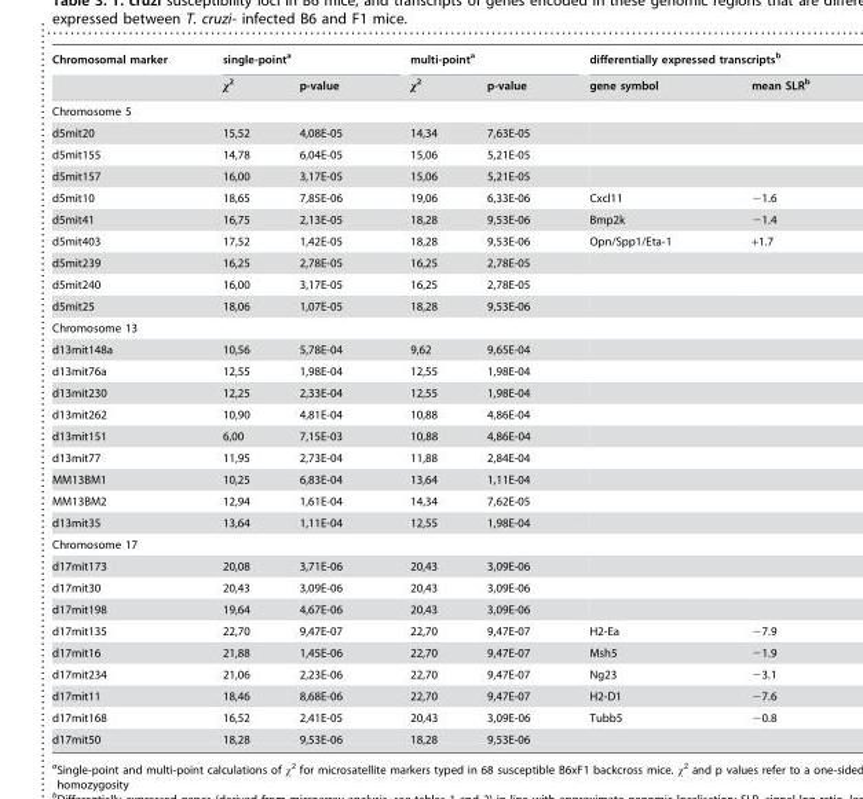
<table><thead><tr><td rowspan="2">Chromosomal marker</td><td colspan="2">single-point<sup>a</sup></td><td colspan="2">multi-point<sup>a</sup></td><td colspan="2">differentially expressed transcripts<sup>b</sup></td></tr><tr><td>χ<sup>2</sup></td><td>p-value</td><td>χ<sup>2</sup></td><td>p-value</td><td>gene symbol</td><td>mean SLR<sup>b</sup></td></tr></thead><tbody><tr><td colspan="7">Chromosome 5</td></tr><tr><td>d5mit20</td><td>15,52</td><td>4,08E-05</td><td>14,34</td><td>7,63E-05</td><td></td><td></td></tr><tr><td>d5mit155</td><td>14,78</td><td>6,04E-05</td><td>15,06</td><td>5,21E-05</td><td></td><td></td></tr><tr><td>d5mit157</td><td>16,00</td><td>3,17E-05</td><td>15,06</td><td>5,21E-05</td><td></td><td></td></tr><tr><td>d5mit10</td><td>18,65</td><td>7,85E-06</td><td>19,06</td><td>6,33E-06</td><td>Cxcl11</td><td>−1.6</td></tr><tr><td>d5mit41</td><td>16,75</td><td>2,13E-05</td><td>18,28</td><td>9,53E-06</td><td>Bmp2k</td><td>−1.4</td></tr><tr><td>d5mit403</td><td>17,52</td><td>1,42E-05</td><td>18,28</td><td>9,53E-06</td><td>Opn/Spp1/Eta-1</td><td>+1.7</td></tr><tr><td>d5mit239</td><td>16,25</td><td>2,78E-05</td><td>16,25</td><td>2,78E-05</td><td></td><td></td></tr><tr><td>d5mit240</td><td>16,00</td><td>3,17E-05</td><td>16,25</td><td>2,78E-05</td><td></td><td></td></tr><tr><td>d5mit25</td><td>18,06</td><td>1,07E-05</td><td>18,28</td><td>9,53E-06</td><td></td><td></td></tr><tr><td colspan="7">Chromosome 13</td></tr><tr><td>d13mit148a</td><td>10,56</td><td>5,78E-04</td><td>9,62</td><td>9,65E-04</td><td></td><td></td></tr><tr><td>d13mit76a</td><td>12,55</td><td>1,98E-04</td><td>12,55</td><td>1,98E-04</td><td></td><td></td></tr><tr><td>d13mit230</td><td>12,25</td><td>2,33E-04</td><td>12,55</td><td>1,98E-04</td><td></td><td></td></tr><tr><td>d13mit262</td><td>10,90</td><td>4,81E-04</td><td>10,88</td><td>4,86E-04</td><td></td><td></td></tr><tr><td>d13mit151</td><td>6,00</td><td>7,15E-03</td><td>10,88</td><td>4,86E-04</td><td></td><td></td></tr><tr><td>d13mit77</td><td>11,95</td><td>2,73E-04</td><td>11,88</td><td>2,84E-04</td><td></td><td></td></tr><tr><td>MM13BM1</td><td>10,25</td><td>6,83E-04</td><td>13,64</td><td>1,11E-04</td><td></td><td></td></tr><tr><td>MM13BM2</td><td>12,94</td><td>1,61E-04</td><td>14,34</td><td>7,62E-05</td><td></td><td></td></tr><tr><td>d13mit35</td><td>13,64</td><td>1,11E-04</td><td>12,55</td><td>1,98E-04</td><td></td><td></td></tr><tr><td colspan="7">Chromosome 17</td></tr><tr><td>d17mit173</td><td>20,08</td><td>3,71E-06</td><td>20,43</td><td>3,09E-06</td><td></td><td></td></tr><tr><td>d17mit30</td><td>20,43</td><td>3,09E-06</td><td>20,43</td><td>3,09E-06</td><td></td><td></td></tr><tr><td>d17mit198</td><td>19,64</td><td>4,67E-06</td><td>20,43</td><td>3,09E-06</td><td></td><td></td></tr><tr><td>d17mit135</td><td>22,70</td><td>9,47E-07</td><td>22,70</td><td>9,47E-07</td><td>H2-Ea</td><td>−7.9</td></tr><tr><td>d17mit16</td><td>21,88</td><td>1,45E-06</td><td>22,70</td><td>9,47E-07</td><td>Msh5</td><td>−1.9</td></tr><tr><td>d17mit234</td><td>21,06</td><td>2,23E-06</td><td>22,70</td><td>9,47E-07</td><td>Ng23</td><td>−3.1</td></tr><tr><td>d17mit11</td><td>18,46</td><td>8,68E-06</td><td>22,70</td><td>9,47E-07</td><td>H2-D1</td><td>−7.6</td></tr><tr><td>d17mit168</td><td>16,52</td><td>2,41E-05</td><td>20,43</td><td>3,09E-06</td><td>Tubb5</td><td>−0.8</td></tr><tr><td>d17mit50</td><td>18,28</td><td>9,53E-06</td><td>18,28</td><td>9,53E-06</td><td></td><td></td></tr></tbody></table>